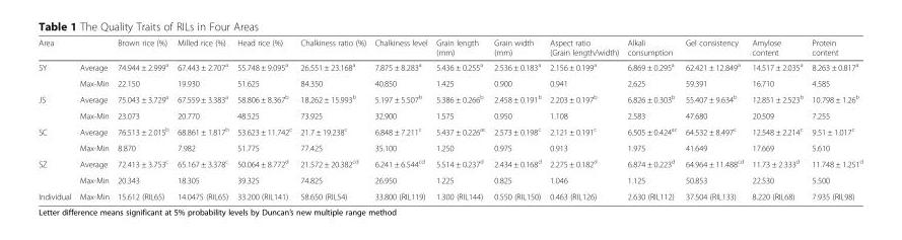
<table><thead><tr><td>Area</td><td></td><td>Brown rice (%)</td><td>Milled rice (%)</td><td>Head rice (%)</td><td>Chalkiness ratio (%)</td><td>Chalkiness level</td><td>Grain length (mm)</td><td>Grain width (mm)</td><td>Aspect ratio (Grain length/width)</td><td>Alkali consumption</td><td>Gel consistency</td><td>Amylose content</td><td>Protein content</td></tr></thead><tbody><tr><td rowspan="2">SY</td><td>Average</td><td>74.944 ± 2.999<sup>a</sup></td><td>67.443 ± 2.707<sup>a</sup></td><td>55.748 ± 9.095<sup>a</sup></td><td>26.551 ± 23.168<sup>a</sup></td><td>7.875 ± 8.283<sup>a</sup></td><td>5.436 ± 0.255<sup>a</sup></td><td>2.536 ± 0.183<sup>a</sup></td><td>2.156 ± 0.199<sup>a</sup></td><td>6.869 ± 0.295<sup>a</sup></td><td>62.421 ± 12.849<sup>a</sup></td><td>14.517 ± 2.035<sup>a</sup></td><td>8.263 ± 0.817<sup>a</sup></td></tr><tr><td>Max-Min</td><td>22.150</td><td>19.930</td><td>51.625</td><td>84.350</td><td>40.850</td><td>1.425</td><td>0.900</td><td>0.941</td><td>2.625</td><td>59.391</td><td>16.710</td><td>4.585</td></tr><tr><td rowspan="2">JS</td><td>Average</td><td>75.043 ± 3.729<sup>a</sup></td><td>67.559 ± 3.383<sup>a</sup></td><td>58.806 ± 8.367<sup>b</sup></td><td>18.262 ± 15.993<sup>b</sup></td><td>5.197 ± 5.507<sup>b</sup></td><td>5.386 ± 0.266<sup>b</sup></td><td>2.458 ± 0.191<sup>b</sup></td><td>2.203 ± 0.197<sup>b</sup></td><td>6.826 ± 0.303<sup>b</sup></td><td>55.407 ± 9.634<sup>b</sup></td><td>12.851 ± 2.523<sup>b</sup></td><td>10.798 ± 1.26<sup>b</sup></td></tr><tr><td>Max-Min</td><td>23.073</td><td>20.770</td><td>48.525</td><td>73.925</td><td>32.900</td><td>1.575</td><td>0.950</td><td>1.108</td><td>2.583</td><td>47.680</td><td>20.509</td><td>7.255</td></tr><tr><td rowspan="2">SC</td><td>Average</td><td>76.513 ± 2.015<sup>b</sup></td><td>68.861 ± 1.817<sup>b</sup></td><td>53.623 ± 11.742<sup>c</sup></td><td>21.7 ± 19.238<sup>c</sup></td><td>6.848 ± 7.211<sup>c</sup></td><td>5.437 ± 0.226<sup>ac</sup></td><td>2.573 ± 0.198<sup>c</sup></td><td>2.121 ± 0.191<sup>c</sup></td><td>6.505 ± 0.424<sup>ac</sup></td><td>64.532 ± 8.497<sup>c</sup></td><td>12.548 ± 2.214<sup>c</sup></td><td>9.51 ± 1.017<sup>c</sup></td></tr><tr><td>Max-Min</td><td>8.870</td><td>7.982</td><td>51.775</td><td>77.425</td><td>35.100</td><td>1.250</td><td>0.975</td><td>0.913</td><td>1.975</td><td>41.649</td><td>17.669</td><td>5.610</td></tr><tr><td rowspan="2">SZ</td><td>Average</td><td>72.413 ± 3.753<sup>c</sup></td><td>65.167 ± 3.378<sup>c</sup></td><td>50.064 ± 8.772<sup>d</sup></td><td>21.572 ± 20.382<sup>cd</sup></td><td>6.241 ± 6.544<sup>cd</sup></td><td>5.514 ± 0.237<sup>d</sup></td><td>2.434 ± 0.168<sup>d</sup></td><td>2.275 ± 0.182<sup>d</sup></td><td>6.874 ± 0.223<sup>d</sup></td><td>64.964 ± 11.488<sup>cd</sup></td><td>11.73 ± 2.333<sup>d</sup></td><td>11.748 ± 1.251<sup>d</sup></td></tr><tr><td>Max-Min</td><td>20.343</td><td>18.305</td><td>39.325</td><td>74.825</td><td>26.950</td><td>1.225</td><td>0.825</td><td>1.046</td><td>1.125</td><td>50.853</td><td>22.530</td><td>5.500</td></tr><tr><td>Individual</td><td>Max-Min</td><td>15.612 (RIL65)</td><td>14.0475 (RIL65)</td><td>33.200 (RIL141)</td><td>58.650 (RIL54)</td><td>33.800 (RIL119)</td><td>1.300 (RIL144)</td><td>0.550 (RIL150)</td><td>0.463 (RIL126)</td><td>2.630 (RIL112)</td><td>37.504 (RIL133)</td><td>8.220 (RIL68)</td><td>7.935 (RIL98)</td></tr></tbody></table>